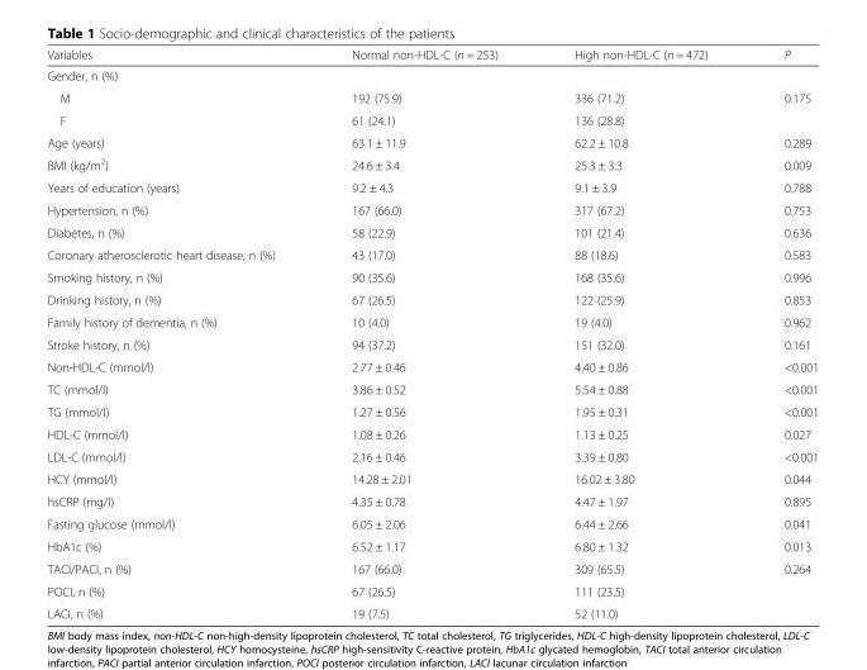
<table><thead><tr><td>Variables</td><td>Normal non-HDL-C (n = 253)</td><td>High non-HDL-C (n = 472)</td><td>P</td></tr></thead><tbody><tr><td colspan="4">Gender, n (%)</td></tr><tr><td>M</td><td>192 (75.9)</td><td>336 (71.2)</td><td rowspan="2">0.175</td></tr><tr><td>F</td><td>61 (24.1)</td><td>136 (28.8)</td></tr><tr><td>Age (years)</td><td>63.1 ± 11.9</td><td>62.2 ± 10.8</td><td>0.289</td></tr><tr><td>BMI (kg/m<sup>2</sup>)</td><td>24.6 ± 3.4</td><td>25.3 ± 3.3</td><td>0.009</td></tr><tr><td>Years of education (years)</td><td>9.2 ± 4.3</td><td>9.1 ± 3.9</td><td>0.788</td></tr><tr><td>Hypertension, n (%)</td><td>167 (66.0)</td><td>317 (67.2)</td><td>0.753</td></tr><tr><td>Diabetes, n (%)</td><td>58 (22.9)</td><td>101 (21.4)</td><td>0.636</td></tr><tr><td>Coronary atherosclerotic heart disease, n (%)</td><td>43 (17.0)</td><td>88 (18.6)</td><td>0.583</td></tr><tr><td>Smoking history, n (%)</td><td>90 (35.6)</td><td>168 (35.6)</td><td>0.996</td></tr><tr><td>Drinking history, n (%)</td><td>67 (26.5)</td><td>122 (25.9)</td><td>0.853</td></tr><tr><td>Family history of dementia, n (%)</td><td>10 (4.0)</td><td>19 (4.0)</td><td>0.962</td></tr><tr><td>Stroke history, n (%)</td><td>94 (37.2)</td><td>151 (32.0)</td><td>0.161</td></tr><tr><td>Non-HDL-C (mmol/l)</td><td>2.77 ± 0.46</td><td>4.40 ± 0.86</td><td>&lt;0.001</td></tr><tr><td>TC (mmol/l)</td><td>3.86 ± 0.52</td><td>5.54 ± 0.88</td><td>&lt;0.001</td></tr><tr><td>TG (mmol/l)</td><td>1.27 ± 0.56</td><td>1.95 ± 0.31</td><td>&lt;0.001</td></tr><tr><td>HDL-C (mmol/l)</td><td>1.08 ± 0.26</td><td>1.13 ± 0.25</td><td>0.027</td></tr><tr><td>LDL-C (mmol/l)</td><td>2.16 ± 0.46</td><td>3.39 ± 0.80</td><td>&lt;0.001</td></tr><tr><td>HCY (mmol/l)</td><td>14.28 ± 2.01</td><td>16.02 ± 3.80</td><td>0.044</td></tr><tr><td>hsCRP (mg/l)</td><td>4.35 ± 0.78</td><td>4.47 ± 1.97</td><td>0.895</td></tr><tr><td>Fasting glucose (mmol/l)</td><td>6.05 ± 2.06</td><td>6.44 ± 2.66</td><td>0.041</td></tr><tr><td>HbA1c (%)</td><td>6.52 ± 1.17</td><td>6.80 ± 1.32</td><td>0.013</td></tr><tr><td>TACI/PACI, n (%)</td><td>167 (66.0)</td><td>309 (65.5)</td><td rowspan="3">0.264</td></tr><tr><td>POCI, n (%)</td><td>67 (26.5)</td><td>111 (23.5)</td></tr><tr><td>LACI, n (%)</td><td>19 (7.5)</td><td>52 (11.0)</td></tr></tbody></table>